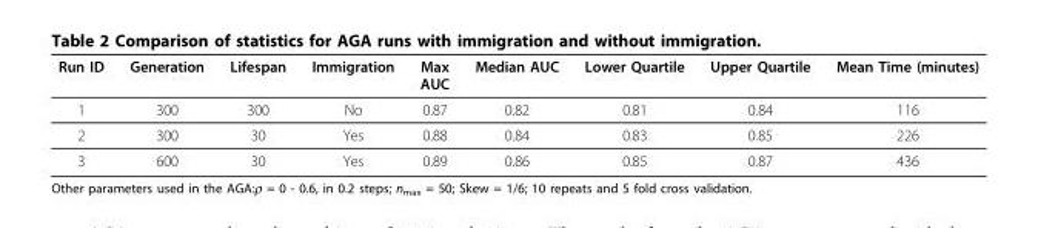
<table><thead><tr><td>Run ID</td><td>Generation</td><td>Lifespan</td><td>Immigration</td><td>Max AUC</td><td>Median AUC</td><td>Lower Quartile</td><td>Upper Quartile</td><td>Mean Time (minutes)</td></tr></thead><tbody><tr><td>1</td><td>300</td><td>300</td><td>No</td><td>0.87</td><td>0.82</td><td>0.81</td><td>0.84</td><td>116</td></tr><tr><td>2</td><td>300</td><td>30</td><td>Yes</td><td>0.88</td><td>0.84</td><td>0.83</td><td>0.85</td><td>226</td></tr><tr><td>3</td><td>600</td><td>30</td><td>Yes</td><td>0.89</td><td>0.86</td><td>0.85</td><td>0.87</td><td>436</td></tr></tbody></table>